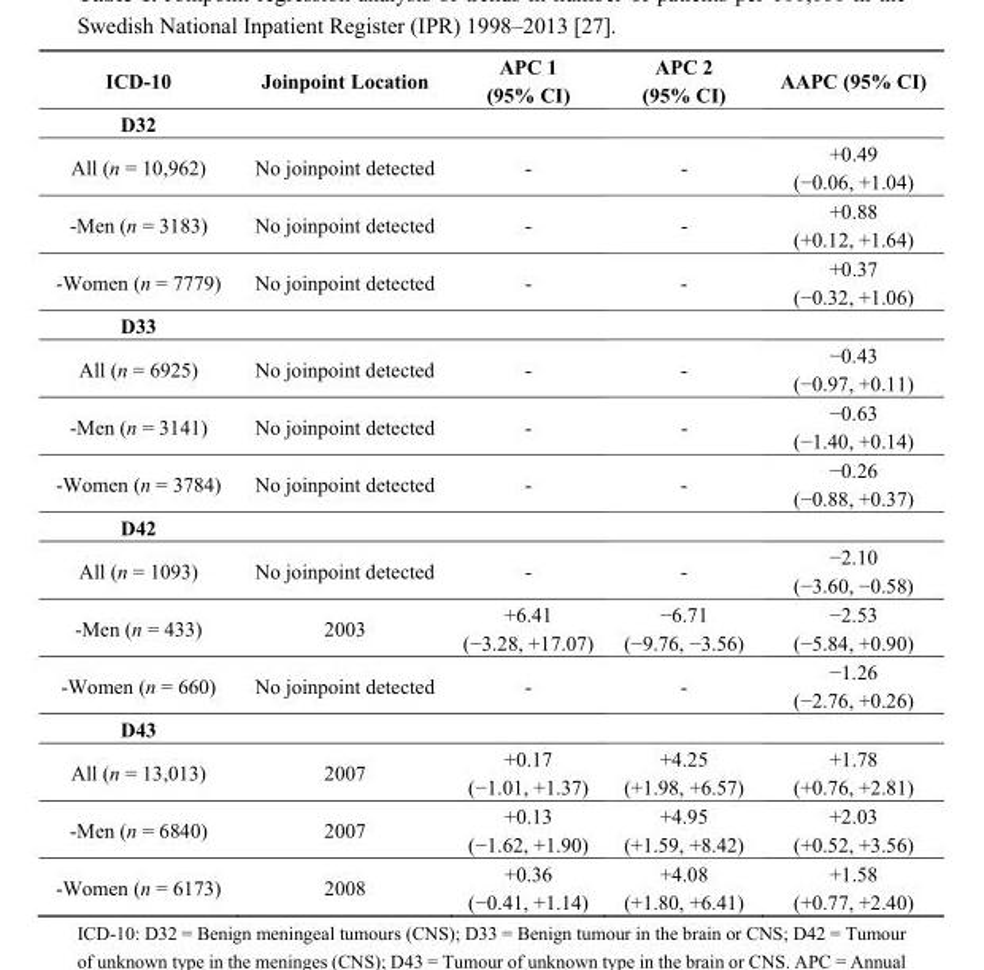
<table><thead><tr><td>ICD-10</td><td>Joinpoint Location</td><td>APC 1 (95% CI)</td><td>APC 2 (95% CI)</td><td>AAPC (95% CI)</td></tr></thead><tbody><tr><td colspan="5">D32</td></tr><tr><td>All (n = 10,962)</td><td>No joinpoint detected</td><td>-</td><td>-</td><td>+0.49 (−0.06, +1.04)</td></tr><tr><td>-Men (n = 3183)</td><td>No joinpoint detected</td><td>-</td><td>-</td><td>+0.88 (+0.12, +1.64)</td></tr><tr><td>-Women (n = 7779)</td><td>No joinpoint detected</td><td>-</td><td>-</td><td>+0.37 (−0.32, +1.06)</td></tr><tr><td colspan="5">D33</td></tr><tr><td>All (n = 6925)</td><td>No joinpoint detected</td><td>-</td><td>-</td><td>−0.43 (−0.97, +0.11)</td></tr><tr><td>-Men (n = 3141)</td><td>No joinpoint detected</td><td>-</td><td>-</td><td>−0.63 (−1.40, +0.14)</td></tr><tr><td>-Women (n = 3784)</td><td>No joinpoint detected</td><td>-</td><td>-</td><td>−0.26 (−0.88, +0.37)</td></tr><tr><td colspan="5">D42</td></tr><tr><td>All (n = 1093)</td><td>No joinpoint detected</td><td>-</td><td>-</td><td>−2.10 (−3.60, −0.58)</td></tr><tr><td>-Men (n = 433)</td><td>2003</td><td>+6.41 (−3.28, +17.07)</td><td>−6.71 (−9.76, −3.56)</td><td>−2.53 (−5.84, +0.90)</td></tr><tr><td>-Women (n = 660)</td><td>No joinpoint detected</td><td>-</td><td>-</td><td>−1.26 (−2.76, +0.26)</td></tr><tr><td colspan="5">D43</td></tr><tr><td>All (n = 13,013)</td><td>2007</td><td>+0.17 (−1.01, +1.37)</td><td>+4.25 (+1.98, +6.57)</td><td>+1.78 (+0.76, +2.81)</td></tr><tr><td>-Men (n = 6840)</td><td>2007</td><td>+0.13 (−1.62, +1.90)</td><td>+4.95 (+1.59, +8.42)</td><td>+2.03 (+0.52, +3.56)</td></tr><tr><td>-Women (n = 6173)</td><td>2008</td><td>+0.36 (−0.41, +1.14)</td><td>+4.08 (+1.80, +6.41)</td><td>+1.58 (+0.77, +2.40)</td></tr></tbody></table>